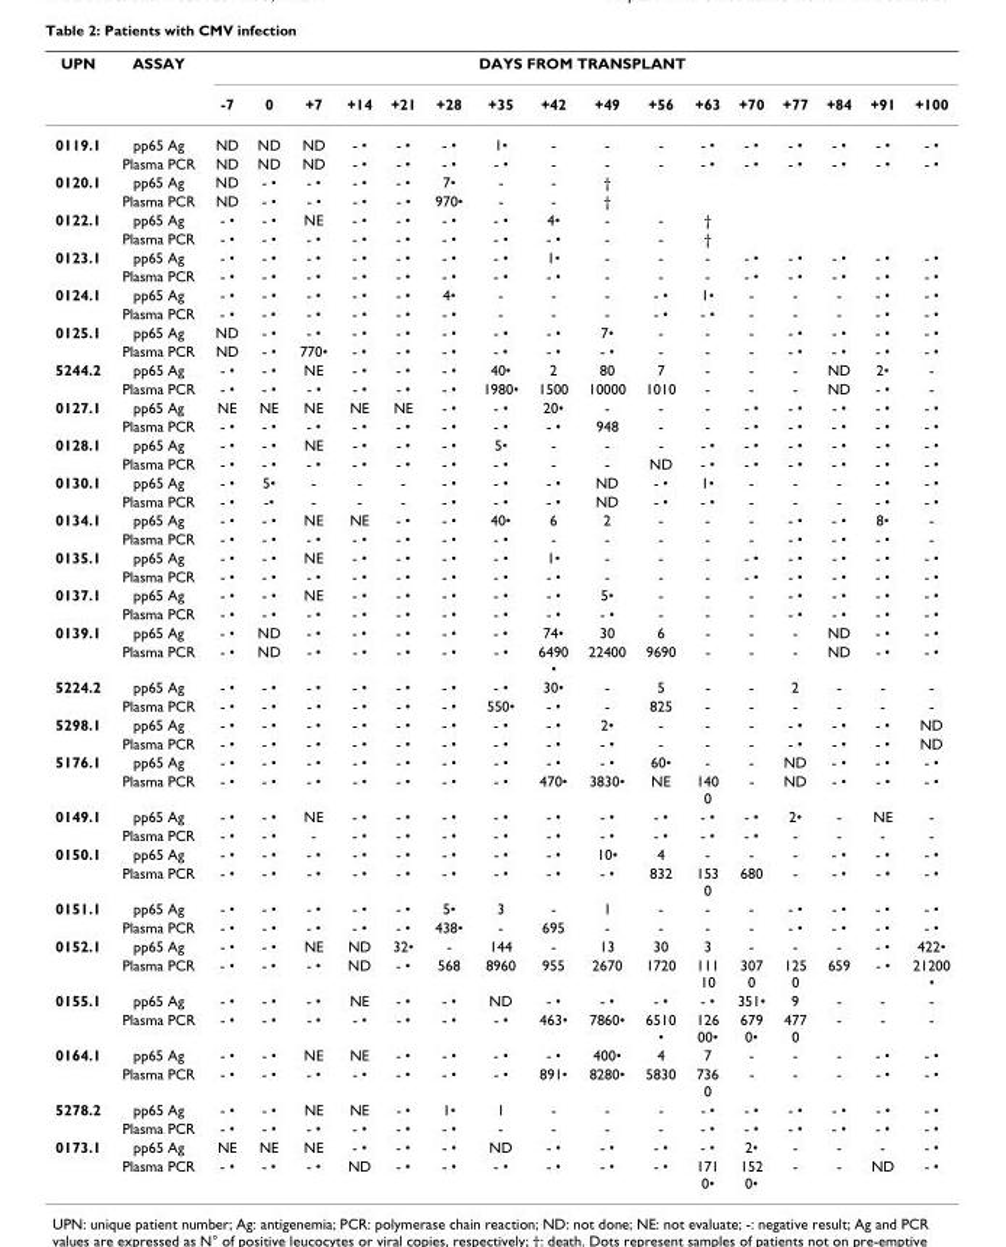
<table><thead><tr><td rowspan="2">UPN</td><td rowspan="2">ASSAY</td><td colspan="16">DAYS FROM TRANSPLANT</td></tr><tr><td>-7</td><td>0</td><td>+7</td><td>+14</td><td>+21</td><td>+28</td><td>+35</td><td>+42</td><td>+49</td><td>+56</td><td>+63</td><td>+70</td><td>+77</td><td>+84</td><td>+91</td><td>+100</td></tr></thead><tbody><tr><td rowspan="2">0119.1</td><td>pp65 Ag</td><td>ND</td><td>ND</td><td>ND</td><td>- •</td><td>- •</td><td>- •</td><td>1•</td><td>-</td><td>-</td><td>-</td><td>- •</td><td>- •</td><td>- •</td><td>- •</td><td>- •</td><td>- •</td></tr><tr><td>Plasma PCR</td><td>ND</td><td>ND</td><td>ND</td><td>- •</td><td>- •</td><td>- •</td><td>- •</td><td>-</td><td>-</td><td>-</td><td>- •</td><td>- •</td><td>- •</td><td>- •</td><td>- •</td><td>- •</td></tr><tr><td rowspan="2">0120.1</td><td>pp65 Ag</td><td>ND</td><td>- •</td><td>- •</td><td>- •</td><td>- •</td><td>7•</td><td>-</td><td>-</td><td>†</td><td></td><td></td><td></td><td></td><td></td><td></td><td></td></tr><tr><td>Plasma PCR</td><td>ND</td><td>- •</td><td>- •</td><td>- •</td><td>- •</td><td>970•</td><td>-</td><td>-</td><td>†</td><td></td><td></td><td></td><td></td><td></td><td></td><td></td></tr><tr><td rowspan="2">0122.1</td><td>pp65 Ag</td><td>- •</td><td>- •</td><td>NE</td><td>- •</td><td>- •</td><td>- •</td><td>- •</td><td>4•</td><td>-</td><td>-</td><td>†</td><td></td><td></td><td></td><td></td><td></td></tr><tr><td>Plasma PCR</td><td>- •</td><td>- •</td><td>- •</td><td>- •</td><td>- •</td><td>- •</td><td>- •</td><td>- •</td><td>-</td><td>-</td><td>†</td><td></td><td></td><td></td><td></td><td></td></tr><tr><td rowspan="2">0123.1</td><td>pp65 Ag</td><td>- •</td><td>- •</td><td>- •</td><td>- •</td><td>- •</td><td>- •</td><td>- •</td><td>1•</td><td>-</td><td>-</td><td>-</td><td>- •</td><td>- •</td><td>- •</td><td>- •</td><td>- •</td></tr><tr><td>Plasma PCR</td><td>- •</td><td>- •</td><td>- •</td><td>- •</td><td>- •</td><td>- •</td><td>- •</td><td>- •</td><td>-</td><td>-</td><td>-</td><td>- •</td><td>- •</td><td>- •</td><td>- •</td><td>- •</td></tr><tr><td rowspan="2">0124.1</td><td>pp65 Ag</td><td>- •</td><td>- •</td><td>- •</td><td>- •</td><td>- •</td><td>4•</td><td>-</td><td>-</td><td>-</td><td>- •</td><td>1•</td><td>-</td><td>-</td><td>-</td><td>- •</td><td>- •</td></tr><tr><td>Plasma PCR</td><td>- •</td><td>- •</td><td>- •</td><td>- •</td><td>- •</td><td>- •</td><td>-</td><td>-</td><td>-</td><td>- •</td><td>- •</td><td>-</td><td>-</td><td>-</td><td>- •</td><td>- •</td></tr><tr><td rowspan="2">0125.1</td><td>pp65 Ag</td><td>ND</td><td>- •</td><td>- •</td><td>- •</td><td>- •</td><td>- •</td><td>- •</td><td>- •</td><td>7•</td><td>-</td><td>-</td><td>-</td><td>- •</td><td>- •</td><td>- •</td><td>- •</td></tr><tr><td>Plasma PCR</td><td>ND</td><td>- •</td><td>770•</td><td>- •</td><td>- •</td><td>- •</td><td>- •</td><td>- •</td><td>- •</td><td>-</td><td>-</td><td>-</td><td>- •</td><td>- •</td><td>- •</td><td>- •</td></tr><tr><td rowspan="2">5244.2</td><td>pp65 Ag</td><td>- •</td><td>- •</td><td>NE</td><td>- •</td><td>- •</td><td>- •</td><td>40•</td><td>2</td><td>80</td><td>7</td><td>-</td><td>-</td><td>-</td><td>ND</td><td>2•</td><td>-</td></tr><tr><td>Plasma PCR</td><td>- •</td><td>- •</td><td>- •</td><td>- •</td><td>- •</td><td>- •</td><td>1980•</td><td>1500</td><td>10000</td><td>1010</td><td>-</td><td>-</td><td>-</td><td>ND</td><td>- •</td><td>-</td></tr><tr><td rowspan="2">0127.1</td><td>pp65 Ag</td><td>NE</td><td>NE</td><td>NE</td><td>NE</td><td>NE</td><td>- •</td><td>- •</td><td>20•</td><td>-</td><td>-</td><td>-</td><td>- •</td><td>- •</td><td>- •</td><td>- •</td><td>- •</td></tr><tr><td>Plasma PCR</td><td>- •</td><td>- •</td><td>- •</td><td>- •</td><td>- •</td><td>- •</td><td>- •</td><td>- •</td><td>948</td><td>-</td><td>-</td><td>- •</td><td>- •</td><td>- •</td><td>- •</td><td>- •</td></tr><tr><td rowspan="2">0128.1</td><td>pp65 Ag</td><td>- •</td><td>- •</td><td>NE</td><td>- •</td><td>- •</td><td>- •</td><td>5•</td><td>-</td><td>-</td><td>-</td><td>- •</td><td>- •</td><td>- •</td><td>- •</td><td>- •</td><td>- •</td></tr><tr><td>Plasma PCR</td><td>- •</td><td>- •</td><td>- •</td><td>- •</td><td>- •</td><td>- •</td><td>- •</td><td>-</td><td>-</td><td>ND</td><td>- •</td><td>- •</td><td>- •</td><td>- •</td><td>- •</td><td>- •</td></tr><tr><td rowspan="2">0130.1</td><td>pp65 Ag</td><td>- •</td><td>5•</td><td>-</td><td>-</td><td>-</td><td>- •</td><td>- •</td><td>- •</td><td>ND</td><td>- •</td><td>1•</td><td>-</td><td>-</td><td>-</td><td>- •</td><td>- •</td></tr><tr><td>Plasma PCR</td><td>- •</td><td>-•</td><td>-</td><td>-</td><td>-</td><td>- •</td><td>- •</td><td>- •</td><td>ND</td><td>- •</td><td>- •</td><td>-</td><td>-</td><td>-</td><td>- •</td><td>- •</td></tr><tr><td rowspan="2">0134.1</td><td>pp65 Ag</td><td>- •</td><td>- •</td><td>NE</td><td>NE</td><td>- •</td><td>- •</td><td>40•</td><td>6</td><td>2</td><td>-</td><td>-</td><td>-</td><td>- •</td><td>- •</td><td>8•</td><td>-</td></tr><tr><td>Plasma PCR</td><td>- •</td><td>- •</td><td>- •</td><td>- •</td><td>- •</td><td>- •</td><td>- •</td><td>-</td><td>-</td><td>-</td><td>-</td><td>-</td><td>- •</td><td>- •</td><td>- •</td><td>-</td></tr><tr><td rowspan="2">0135.1</td><td>pp65 Ag</td><td>- •</td><td>- •</td><td>NE</td><td>- •</td><td>- •</td><td>- •</td><td>- •</td><td>1•</td><td>-</td><td>-</td><td>-</td><td>- •</td><td>- •</td><td>- •</td><td>- •</td><td>- •</td></tr><tr><td>Plasma PCR</td><td>- •</td><td>- •</td><td>- •</td><td>- •</td><td>- •</td><td>- •</td><td>- •</td><td>- •</td><td>-</td><td>-</td><td>-</td><td>- •</td><td>- •</td><td>- •</td><td>- •</td><td>- •</td></tr><tr><td rowspan="2">0137.1</td><td>pp65 Ag</td><td>- •</td><td>- •</td><td>NE</td><td>- •</td><td>- •</td><td>- •</td><td>- •</td><td>- •</td><td>5•</td><td>-</td><td>-</td><td>-</td><td>- •</td><td>- •</td><td>- •</td><td>- •</td></tr><tr><td>Plasma PCR</td><td>- •</td><td>- •</td><td>- •</td><td>- •</td><td>- •</td><td>- •</td><td>- •</td><td>- •</td><td>- •</td><td>-</td><td>-</td><td>-</td><td>- •</td><td>- •</td><td>- •</td><td>- •</td></tr><tr><td rowspan="2">0139.1</td><td>pp65 Ag</td><td>- •</td><td>ND</td><td>- •</td><td>- •</td><td>- •</td><td>- •</td><td>- •</td><td>74•</td><td>30</td><td>6</td><td>-</td><td>-</td><td>-</td><td>ND</td><td>- •</td><td>- •</td></tr><tr><td>Plasma PCR</td><td>- •</td><td>ND</td><td>- •</td><td>- •</td><td>- •</td><td>- •</td><td>- •</td><td>6490 •</td><td>22400</td><td>9690</td><td>-</td><td>-</td><td>-</td><td>ND</td><td>- •</td><td>- •</td></tr><tr><td rowspan="2">5224.2</td><td>pp65 Ag</td><td>- •</td><td>- •</td><td>- •</td><td>- •</td><td>- •</td><td>- •</td><td>- •</td><td>30•</td><td>-</td><td>5</td><td>-</td><td>-</td><td>2</td><td>-</td><td>-</td><td>-</td></tr><tr><td>Plasma PCR</td><td>- •</td><td>- •</td><td>- •</td><td>- •</td><td>- •</td><td>- •</td><td>550•</td><td>- •</td><td>-</td><td>825</td><td>-</td><td>-</td><td>-</td><td>-</td><td>-</td><td>-</td></tr><tr><td rowspan="2">5298.1</td><td>pp65 Ag</td><td>- •</td><td>- •</td><td>- •</td><td>- •</td><td>- •</td><td>- •</td><td>- •</td><td>- •</td><td>2•</td><td>-</td><td>-</td><td>-</td><td>- •</td><td>- •</td><td>- •</td><td>ND</td></tr><tr><td>Plasma PCR</td><td>- •</td><td>- •</td><td>- •</td><td>- •</td><td>- •</td><td>- •</td><td>- •</td><td>- •</td><td>- •</td><td>-</td><td>-</td><td>-</td><td>- •</td><td>- •</td><td>- •</td><td>ND</td></tr><tr><td rowspan="2">5176.1</td><td>pp65 Ag</td><td>- •</td><td>- •</td><td>- •</td><td>- •</td><td>- •</td><td>- •</td><td>- •</td><td>- •</td><td>- •</td><td>60•</td><td>-</td><td>-</td><td>ND</td><td>- •</td><td>- •</td><td>- •</td></tr><tr><td>Plasma PCR</td><td>- •</td><td>- •</td><td>- •</td><td>- •</td><td>- •</td><td>- •</td><td>- •</td><td>470•</td><td>3830•</td><td>NE</td><td>140 0</td><td>-</td><td>ND</td><td>- •</td><td>- •</td><td>- •</td></tr><tr><td rowspan="2">0149.1</td><td>pp65 Ag</td><td>- •</td><td>- •</td><td>NE</td><td>- •</td><td>- •</td><td>- •</td><td>- •</td><td>- •</td><td>- •</td><td>- •</td><td>- •</td><td>- •</td><td>2•</td><td>-</td><td>NE</td><td>-</td></tr><tr><td>Plasma PCR</td><td>- •</td><td>- •</td><td>-</td><td>- •</td><td>- •</td><td>- •</td><td>- •</td><td>- •</td><td>- •</td><td>- •</td><td>- •</td><td>- •</td><td>-</td><td>-</td><td>-</td><td>-</td></tr><tr><td rowspan="2">0150.1</td><td>pp65 Ag</td><td>- •</td><td>- •</td><td>- •</td><td>- •</td><td>- •</td><td>- •</td><td>- •</td><td>- •</td><td>10•</td><td>4</td><td>-</td><td>-</td><td>-</td><td>- •</td><td>- •</td><td>- •</td></tr><tr><td>Plasma PCR</td><td>- •</td><td>- •</td><td>- •</td><td>- •</td><td>- •</td><td>- •</td><td>- •</td><td>- •</td><td>- •</td><td>832</td><td>153 0</td><td>680</td><td>-</td><td>- •</td><td>- •</td><td>- •</td></tr><tr><td rowspan="2">0151.1</td><td>pp65 Ag</td><td>- •</td><td>- •</td><td>- •</td><td>- •</td><td>- •</td><td>5•</td><td>3</td><td>-</td><td>1</td><td>-</td><td>-</td><td>-</td><td>- •</td><td>- •</td><td>- •</td><td>- •</td></tr><tr><td>Plasma PCR</td><td>- •</td><td>- •</td><td>- •</td><td>- •</td><td>- •</td><td>438•</td><td>-</td><td>695</td><td>-</td><td>-</td><td>-</td><td>-</td><td>- •</td><td>- •</td><td>- •</td><td>- •</td></tr><tr><td rowspan="2">0152.1</td><td>pp65 Ag</td><td>- •</td><td>- •</td><td>NE</td><td>ND</td><td>32•</td><td>-</td><td>144</td><td>-</td><td>13</td><td>30</td><td>3</td><td>-</td><td>-</td><td>-</td><td>- •</td><td>422•</td></tr><tr><td>Plasma PCR</td><td>- •</td><td>- •</td><td>- •</td><td>ND</td><td>- •</td><td>568</td><td>8960</td><td>955</td><td>2670</td><td>1720</td><td>111 10</td><td>307 0</td><td>125 0</td><td>659</td><td>- •</td><td>21200 •</td></tr><tr><td rowspan="2">0155.1</td><td>pp65 Ag</td><td>- •</td><td>- •</td><td>- •</td><td>NE</td><td>- •</td><td>- •</td><td>ND</td><td>- •</td><td>- •</td><td>- •</td><td>- •</td><td>351•</td><td>9</td><td>-</td><td>-</td><td>-</td></tr><tr><td>Plasma PCR</td><td>- •</td><td>- •</td><td>- •</td><td>- •</td><td>- •</td><td>- •</td><td>- •</td><td>463•</td><td>7860•</td><td>6510 •</td><td>126 00•</td><td>679 0•</td><td>477 0</td><td>-</td><td>-</td><td>-</td></tr><tr><td rowspan="2">0164.1</td><td>pp65 Ag</td><td>- •</td><td>- •</td><td>NE</td><td>NE</td><td>- •</td><td>- •</td><td>- •</td><td>- •</td><td>400•</td><td>4</td><td>7</td><td>-</td><td>-</td><td>-</td><td>- •</td><td>- •</td></tr><tr><td>Plasma PCR</td><td>- •</td><td>- •</td><td>- •</td><td>- •</td><td>- •</td><td>- •</td><td>- •</td><td>891•</td><td>8280•</td><td>5830</td><td>736 0</td><td>-</td><td>-</td><td>-</td><td>- •</td><td>- •</td></tr><tr><td rowspan="2">5278.2</td><td>pp65 Ag</td><td>- •</td><td>- •</td><td>NE</td><td>NE</td><td>- •</td><td>1•</td><td>1</td><td>-</td><td>-</td><td>-</td><td>- •</td><td>- •</td><td>- •</td><td>- •</td><td>- •</td><td>- •</td></tr><tr><td>Plasma PCR</td><td>- •</td><td>- •</td><td>- •</td><td>- •</td><td>- •</td><td>- •</td><td>-</td><td>-</td><td>-</td><td>-</td><td>- •</td><td>- •</td><td>- •</td><td>- •</td><td>- •</td><td>- •</td></tr><tr><td rowspan="2">0173.1</td><td>pp65 Ag</td><td>NE</td><td>NE</td><td>NE</td><td>- •</td><td>- •</td><td>- •</td><td>ND</td><td>- •</td><td>- •</td><td>- •</td><td>- •</td><td>2•</td><td>-</td><td>-</td><td>-</td><td>- •</td></tr><tr><td>Plasma PCR</td><td>- •</td><td>- •</td><td>- •</td><td>ND</td><td>- •</td><td>- •</td><td>- •</td><td>- •</td><td>- •</td><td>- •</td><td>171 0•</td><td>152 0•</td><td>-</td><td>-</td><td>ND</td><td>- •</td></tr></tbody></table>